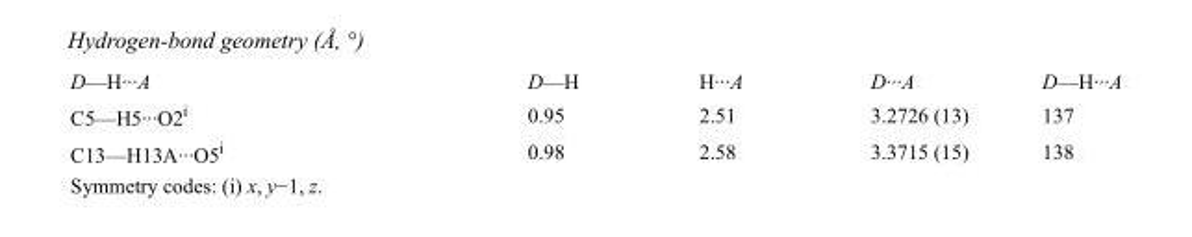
<table><tbody><tr><td>D—H···A</td><td>D—H</td><td>H···A</td><td>D···A</td><td>D—H···A</td></tr><tr><td>C5—H5···O2<sup>i</sup></td><td>0.95</td><td>2.51</td><td>3.2726 (13)</td><td>137</td></tr><tr><td>C13—H13A···O5<sup>i</sup></td><td>0.98</td><td>2.58</td><td>3.3715 (15)</td><td>138</td></tr></tbody></table>